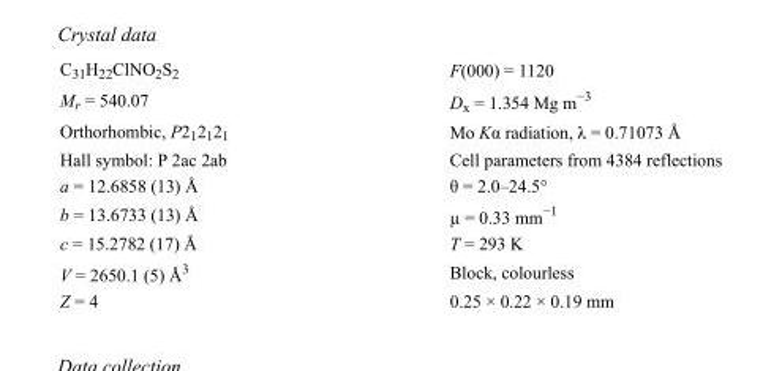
<table><tbody><tr><td>C<sub>31</sub>H<sub>22</sub>ClNO<sub>2</sub>S<sub>2</sub></td><td>F(000) = 1120</td></tr><tr><td>M<sub>r</sub> = 540.07</td><td>D<sub>x</sub> = 1.354 Mg m<sup>−3</sup></td></tr><tr><td>Orthorhombic, P2<sub>1</sub>2<sub>1</sub>2<sub>1</sub></td><td>Mo Kα radiation, λ = 0.71073 Å</td></tr><tr><td>Hall symbol: P 2ac 2ab</td><td>Cell parameters from 4384 reflections</td></tr><tr><td>a = 12.6858 (13) Å</td><td>θ = 2.0–24.5°</td></tr><tr><td>b = 13.6733 (13) Å</td><td>µ = 0.33 mm<sup>−1</sup></td></tr><tr><td>c = 15.2782 (17) Å</td><td>T = 293 K</td></tr><tr><td>V = 2650.1 (5) Å<sup>3</sup></td><td>Block, colourless</td></tr><tr><td>Z = 4</td><td>0.25 × 0.22 × 0.19 mm</td></tr></tbody></table>